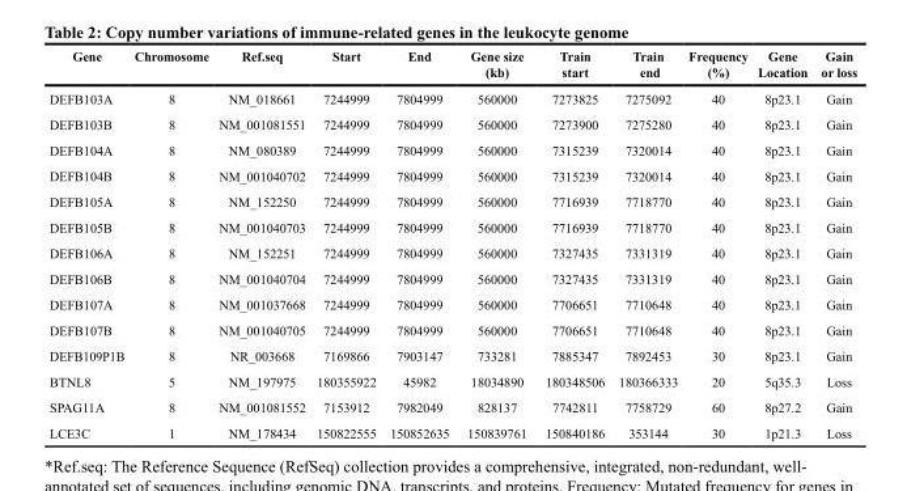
<table><thead><tr><td>Gene</td><td>Chromosome</td><td>Ref.seq</td><td>Start</td><td>End</td><td>Gene size (kb)</td><td>Train start</td><td>Train end</td><td>Frequency (%)</td><td>Gene Location</td><td>Gain or loss</td></tr></thead><tbody><tr><td>DEFB103A</td><td>8</td><td>NM_018661</td><td>7244999</td><td>7804999</td><td>560000</td><td>7273825</td><td>7275092</td><td>40</td><td>8p23.1</td><td>Gain</td></tr><tr><td>DEFB103B</td><td>8</td><td>NM_001081551</td><td>7244999</td><td>7804999</td><td>560000</td><td>7273900</td><td>7275280</td><td>40</td><td>8p23.1</td><td>Gain</td></tr><tr><td>DEFB104A</td><td>8</td><td>NM_080389</td><td>7244999</td><td>7804999</td><td>560000</td><td>7315239</td><td>7320014</td><td>40</td><td>8p23.1</td><td>Gain</td></tr><tr><td>DEFB104B</td><td>8</td><td>NM_001040702</td><td>7244999</td><td>7804999</td><td>560000</td><td>7315239</td><td>7320014</td><td>40</td><td>8p23.1</td><td>Gain</td></tr><tr><td>DEFB105A</td><td>8</td><td>NM_152250</td><td>7244999</td><td>7804999</td><td>560000</td><td>7716939</td><td>7718770</td><td>40</td><td>8p23.1</td><td>Gain</td></tr><tr><td>DEFB105B</td><td>8</td><td>NM_001040703</td><td>7244999</td><td>7804999</td><td>560000</td><td>7716939</td><td>7718770</td><td>40</td><td>8p23.1</td><td>Gain</td></tr><tr><td>DEFB106A</td><td>8</td><td>NM_152251</td><td>7244999</td><td>7804999</td><td>560000</td><td>7327435</td><td>7331319</td><td>40</td><td>8p23.1</td><td>Gain</td></tr><tr><td>DEFB106B</td><td>8</td><td>NM_001040704</td><td>7244999</td><td>7804999</td><td>560000</td><td>7327435</td><td>7331319</td><td>40</td><td>8p23.1</td><td>Gain</td></tr><tr><td>DEFB107A</td><td>8</td><td>NM_001037668</td><td>7244999</td><td>7804999</td><td>560000</td><td>7706651</td><td>7710648</td><td>40</td><td>8p23.1</td><td>Gain</td></tr><tr><td>DEFB107B</td><td>8</td><td>NM_001040705</td><td>7244999</td><td>7804999</td><td>560000</td><td>7706651</td><td>7710648</td><td>40</td><td>8p23.1</td><td>Gain</td></tr><tr><td>DEFB109P1B</td><td>8</td><td>NR_003668</td><td>7169866</td><td>7903147</td><td>733281</td><td>7885347</td><td>7892453</td><td>30</td><td>8p23.1</td><td>Gain</td></tr><tr><td>BTNL8</td><td>5</td><td>NM_197975</td><td>180355922</td><td>45982</td><td>18034890</td><td>180348506</td><td>180366333</td><td>20</td><td>5q35.3</td><td>Loss</td></tr><tr><td>SPAG11A</td><td>8</td><td>NM_001081552</td><td>7153912</td><td>7982049</td><td>828137</td><td>7742811</td><td>7758729</td><td>60</td><td>8p27.2</td><td>Gain</td></tr><tr><td>LCE3C</td><td>1</td><td>NM_178434</td><td>150822555</td><td>150852635</td><td>150839761</td><td>150840186</td><td>353144</td><td>30</td><td>1p21.3</td><td>Loss</td></tr></tbody></table>